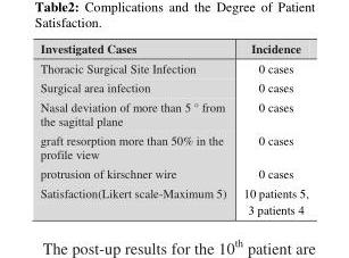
<table><thead><tr><td>Investigated Cases</td><td>Incidence</td></tr></thead><tbody><tr><td>Thoracic Surgical Site Infection</td><td>0 cases</td></tr><tr><td>Surgical area infection</td><td>0 cases</td></tr><tr><td>Nasal deviation of more than 5 ° from the sagittal plane</td><td>0 cases</td></tr><tr><td>graft resorption more than 50% in the profile view</td><td>0 cases</td></tr><tr><td>protrusion of kirschner wire</td><td>0 cases</td></tr><tr><td>Satisfaction(Likert scale-Maximum 5)</td><td>10 patients 5, 3 patients 4</td></tr></tbody></table>